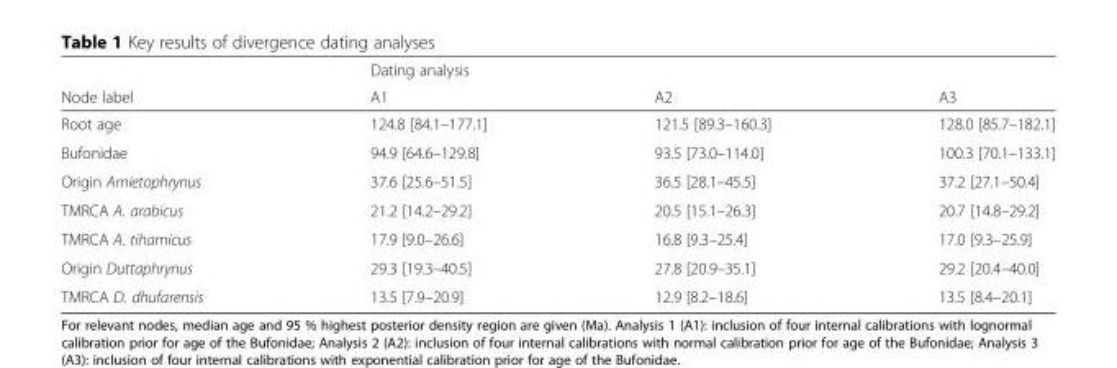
<table><thead><tr><td rowspan="2">Node label</td><td colspan="3">Dating analysis</td></tr><tr><td>A1</td><td>A2</td><td>A3</td></tr></thead><tbody><tr><td>Root age</td><td>124.8 [84.1–177.1]</td><td>121.5 [89.3–160.3]</td><td>128.0 [85.7–182.1]</td></tr><tr><td>Bufonidae</td><td>94.9 [64.6–129.8]</td><td>93.5 [73.0–114.0]</td><td>100.3 [70.1–133.1]</td></tr><tr><td>Origin Amietophrynus</td><td>37.6 [25.6–51.5]</td><td>36.5 [28.1–45.5]</td><td>37.2 [27.1–50.4]</td></tr><tr><td>TMRCA A. arabicus</td><td>21.2 [14.2–29.2]</td><td>20.5 [15.1–26.3]</td><td>20.7 [14.8–29.2]</td></tr><tr><td>TMRCA A. tihamicus</td><td>17.9 [9.0–26.6]</td><td>16.8 [9.3–25.4]</td><td>17.0 [9.3–25.9]</td></tr><tr><td>Origin Duttaphrynus</td><td>29.3 [19.3–40.5]</td><td>27.8 [20.9–35.1]</td><td>29.2 [20.4–40.0]</td></tr><tr><td>TMRCA D. dhufarensis</td><td>13.5 [7.9–20.9]</td><td>12.9 [8.2–18.6]</td><td>13.5 [8.4–20.1]</td></tr></tbody></table>